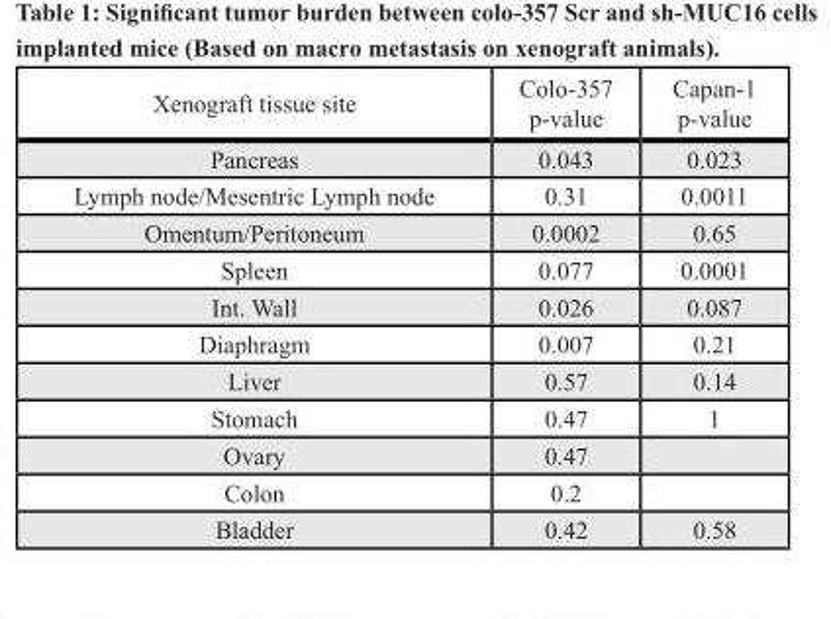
<table><thead><tr><td>Xenograft tissue site</td><td>Colo-357 p-value</td><td>Capan-1 p-value</td></tr></thead><tbody><tr><td>Pancreas</td><td>0.043</td><td>0.023</td></tr><tr><td>Lymph node/Mesentric Lymph node</td><td>0.31</td><td>0.0011</td></tr><tr><td>Omentum/Peritoneum</td><td>0.0002</td><td>0.65</td></tr><tr><td>Spleen</td><td>0.077</td><td>0.0001</td></tr><tr><td>Int. Wall</td><td>0.026</td><td>0.087</td></tr><tr><td>Diaphragm</td><td>0.007</td><td>0.21</td></tr><tr><td>Liver</td><td>0.57</td><td>0.14</td></tr><tr><td>Stomach</td><td>0.47</td><td>1</td></tr><tr><td>Ovary</td><td>0.47</td><td></td></tr><tr><td>Colon</td><td>0.2</td><td></td></tr><tr><td>Bladder</td><td>0.42</td><td>0.58</td></tr></tbody></table>